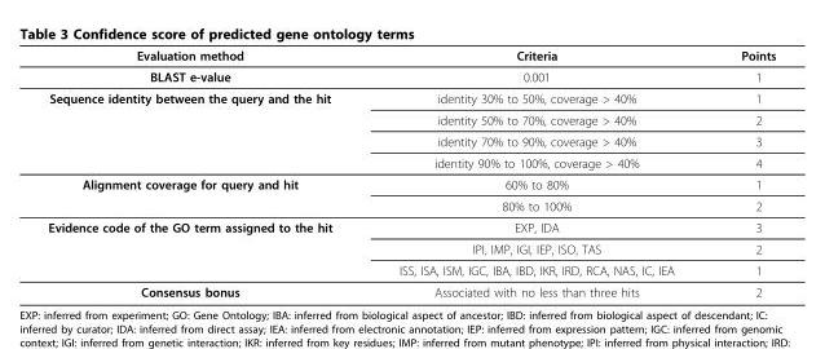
<table><thead><tr><td>Evaluation method</td><td>Criteria</td><td>Points</td></tr></thead><tbody><tr><td>BLAST e-value</td><td>0.001</td><td>1</td></tr><tr><td rowspan="4">Sequence identity between the query and the hit</td><td>identity 30% to 50%, coverage &gt; 40%</td><td>1</td></tr><tr><td>identity 50% to 70%, coverage &gt; 40%</td><td>2</td></tr><tr><td>identity 70% to 90%, coverage &gt; 40%</td><td>3</td></tr><tr><td>identity 90% to 100%, coverage &gt; 40%</td><td>4</td></tr><tr><td rowspan="2">Alignment coverage for query and hit</td><td>60% to 80%</td><td>1</td></tr><tr><td>80% to 100%</td><td>2</td></tr><tr><td rowspan="3">Evidence code of the GO term assigned to the hit</td><td>EXP, IDA</td><td>3</td></tr><tr><td>IPI, IMP, IGI, IEP, ISO, TAS</td><td>2</td></tr><tr><td>ISS, ISA, ISM, IGC, IBA, IBD, IKR, IRD, RCA, NAS, IC, IEA</td><td>1</td></tr><tr><td>Consensus bonus</td><td>Associated with no less than three hits</td><td>2</td></tr></tbody></table>